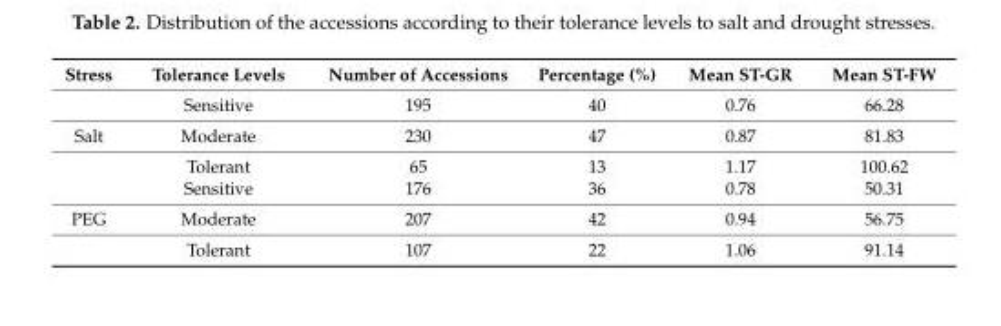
<table><thead><tr><td>Stress</td><td>Tolerance Levels</td><td>Number of Accessions</td><td>Percentage (%)</td><td>Mean ST-GR</td><td>Mean ST-FW</td></tr></thead><tbody><tr><td></td><td>Sensitive</td><td>195</td><td>40</td><td>0.76</td><td>66.28</td></tr><tr><td rowspan="3">Salt</td><td>Moderate</td><td>230</td><td>47</td><td>0.87</td><td>81.83</td></tr><tr><td>Tolerant</td><td>65</td><td>13</td><td>1.17</td><td>100.62</td></tr><tr><td>Sensitive</td><td>176</td><td>36</td><td>0.78</td><td>50.31</td></tr><tr><td rowspan="2">PEG</td><td>Moderate</td><td>207</td><td>42</td><td>0.94</td><td>56.75</td></tr><tr><td>Tolerant</td><td>107</td><td>22</td><td>1.06</td><td>91.14</td></tr></tbody></table>